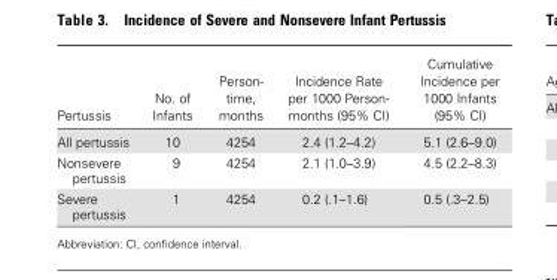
<table><thead><tr><td>Pertussis</td><td>No. of Infants</td><td>Person- time, months</td><td>Incidence Rate per 1000 Person- months (95% CI)</td><td>Cumulative Incidence per 1000 Infants (95% CI)</td></tr></thead><tbody><tr><td>All pertussis</td><td>10</td><td>4254</td><td>2.4 (1.2–4.2)</td><td>5.1 (2.6–9.0)</td></tr><tr><td>Nonsevere pertussis</td><td>9</td><td>4254</td><td>2.1 (1.0–3.9)</td><td>4.5 (2.2–8.3)</td></tr><tr><td>Severe pertussis</td><td>1</td><td>4254</td><td>0.2 (.1–1.6)</td><td>0.5 (.3–2.5)</td></tr></tbody></table>